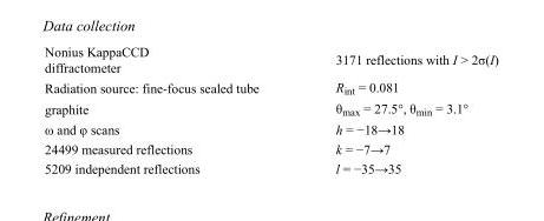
<table><tbody><tr><td>Nonius KappaCCD diffractometer</td><td>3171 reflections with I &gt; 2σ(I)</td></tr><tr><td>Radiation source: fine-focus sealed tube</td><td>R<sub>int</sub> = 0.081</td></tr><tr><td>graphite</td><td>θ<sub>max</sub> = 27.5°, θ<sub>min</sub> = 3.1°</td></tr><tr><td>ω and φ scans</td><td>h = −18→18</td></tr><tr><td>24499 measured reflections</td><td>k = −7→7</td></tr><tr><td>5209 independent reflections</td><td>l = −35→35</td></tr></tbody></table>